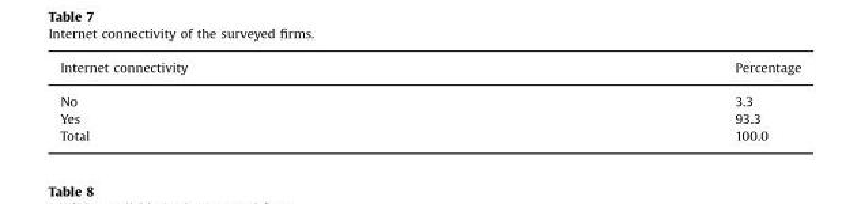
<table><thead><tr><td>Internet connectivity</td><td>Percentage</td></tr></thead><tbody><tr><td>No</td><td>3.3</td></tr><tr><td>Yes</td><td>93.3</td></tr><tr><td>Total</td><td>100.0</td></tr></tbody></table>